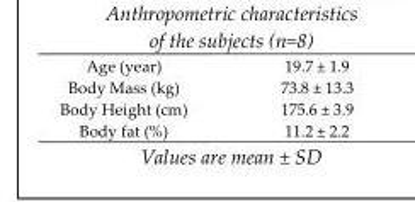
<table><tbody><tr><td>Age (year)</td><td>19.7 ± 1.9</td></tr><tr><td>Body Mass (kg)</td><td>73.8 ± 13.3</td></tr><tr><td>Body Height (cm)</td><td>175.6 ± 3.9</td></tr><tr><td>Body fat (%)</td><td>11.2 ± 2.2</td></tr></tbody></table>